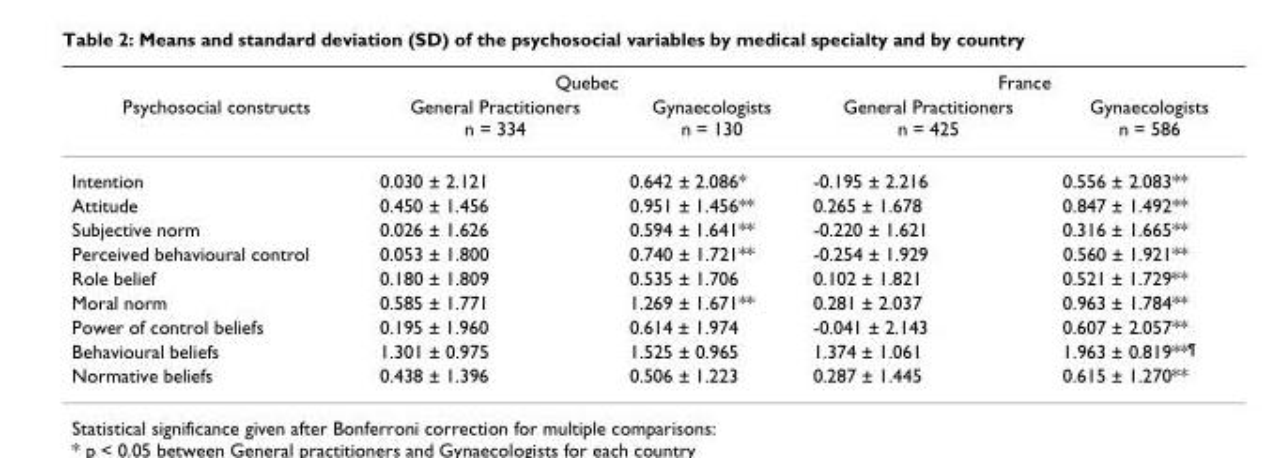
<table><thead><tr><td rowspan="2">Psychosocial constructs</td><td colspan="2">Quebec</td><td colspan="2">France</td></tr><tr><td>General Practitioners n = 334</td><td>Gynaecologists n = 130</td><td>General Practitioners n = 425</td><td>Gynaecologists n = 586</td></tr></thead><tbody><tr><td>Intention</td><td>0.030 ± 2.121</td><td>0.642 ± 2.086*</td><td>-0.195 ± 2.216</td><td>0.556 ± 2.083**</td></tr><tr><td>Attitude</td><td>0.450 ± 1.456</td><td>0.951 ± 1.456**</td><td>0.265 ± 1.678</td><td>0.847 ± 1.492**</td></tr><tr><td>Subjective norm</td><td>0.026 ± 1.626</td><td>0.594 ± 1.641**</td><td>-0.220 ± 1.621</td><td>0.316 ± 1.665**</td></tr><tr><td>Perceived behavioural control</td><td>0.053 ± 1.800</td><td>0.740 ± 1.721**</td><td>-0.254 ± 1.929</td><td>0.560 ± 1.921**</td></tr><tr><td>Role belief</td><td>0.180 ± 1.809</td><td>0.535 ± 1.706</td><td>0.102 ± 1.821</td><td>0.521 ± 1.729**</td></tr><tr><td>Moral norm</td><td>0.585 ± 1.771</td><td>1.269 ± 1.671**</td><td>0.281 ± 2.037</td><td>0.963 ± 1.784**</td></tr><tr><td>Power of control beliefs</td><td>0.195 ± 1.960</td><td>0.614 ± 1.974</td><td>-0.041 ± 2.143</td><td>0.607 ± 2.057**</td></tr><tr><td>Behavioural beliefs</td><td>1.301 ± 0.975</td><td>1.525 ± 0.965</td><td>1.374 ± 1.061</td><td>1.963 ± 0.819**<sup>¶</sup></td></tr><tr><td>Normative beliefs</td><td>0.438 ± 1.396</td><td>0.506 ± 1.223</td><td>0.287 ± 1.445</td><td>0.615 ± 1.270**</td></tr></tbody></table>